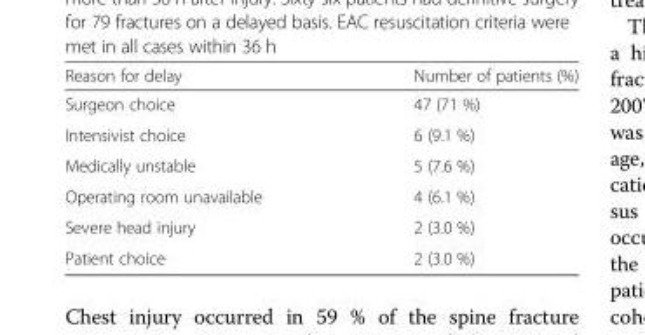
<table><thead><tr><td>Reason for delay</td><td>Number of patients (%)</td></tr></thead><tbody><tr><td>Surgeon choice</td><td>47 (71 %)</td></tr><tr><td>Intensivist choice</td><td>6 (9.1 %)</td></tr><tr><td>Medically unstable</td><td>5 (7.6 %)</td></tr><tr><td>Operating room unavailable</td><td>4 (6.1 %)</td></tr><tr><td>Severe head injury</td><td>2 (3.0 %)</td></tr><tr><td>Patient choice</td><td>2 (3.0 %)</td></tr></tbody></table>